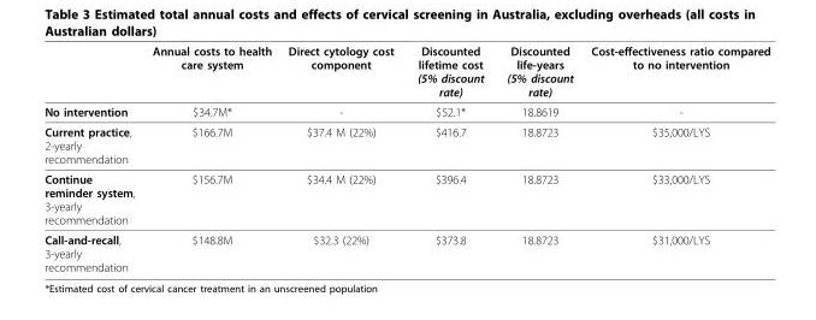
<table><thead><tr><td></td><td>Annual costs to health care system</td><td>Direct cytology cost component</td><td>Discounted lifetime cost (5% discount rate)</td><td>Discounted life-years (5% discount rate)</td><td>Cost-effectiveness ratio compared to no intervention</td></tr></thead><tbody><tr><td>No intervention</td><td>$34.7M*</td><td>-</td><td>$52.1*</td><td>18.8619</td><td>-</td></tr><tr><td>Current practice, 2-yearly recommendation</td><td>$166.7M</td><td>$37.4 M (22%)</td><td>$416.7</td><td>18.8723</td><td>$35,000/LYS</td></tr><tr><td>Continue reminder system, 3-yearly recommendation</td><td>$156.7M</td><td>$34.4 M (22%)</td><td>$396.4</td><td>18.8723</td><td>$33,000/LYS</td></tr><tr><td>Call-and-recall, 3-yearly recommendation</td><td>$148.8M</td><td>$32.3 (22%)</td><td>$373.8</td><td>18.8723</td><td>$31,000/LYS</td></tr></tbody></table>